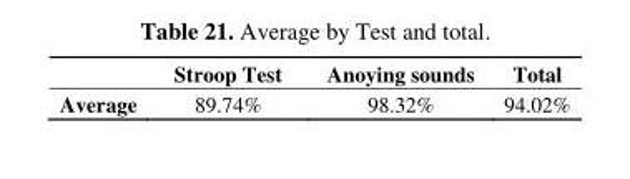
<table><thead><tr><td></td><td>Stroop Test</td><td>Anoying sounds</td><td>Total</td></tr></thead><tbody><tr><td>Average</td><td>89.74%</td><td>98.32%</td><td>94.02%</td></tr></tbody></table>